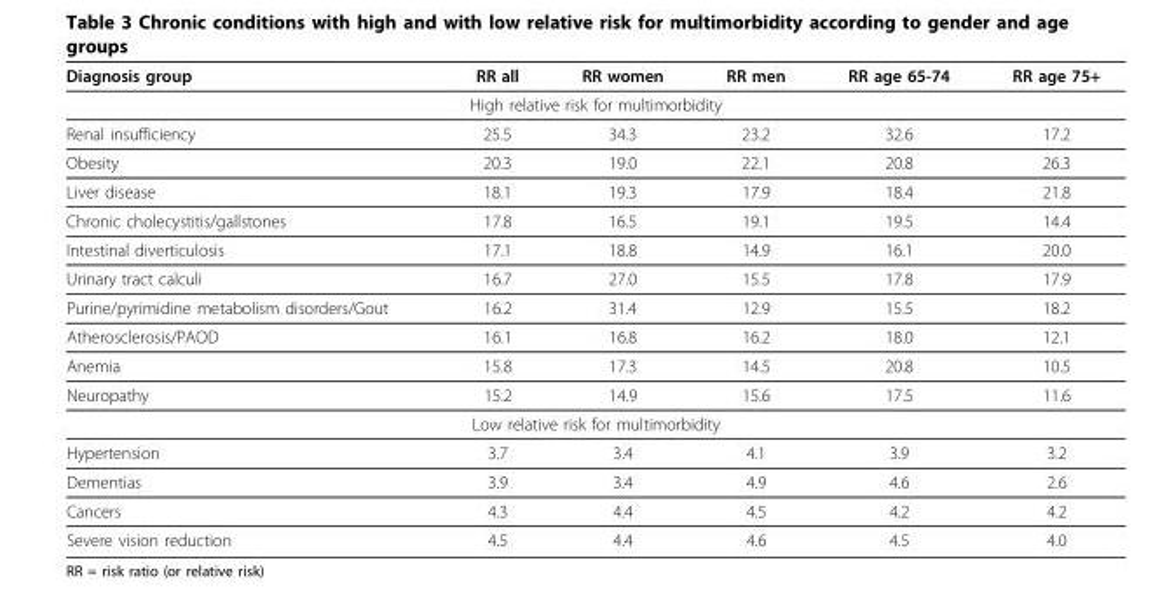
<table><thead><tr><td>Diagnosis group</td><td>RR all</td><td>RR women</td><td>RR men</td><td>RR age 65-74</td><td>RR age 75+</td></tr></thead><tbody><tr><td colspan="6">High relative risk for multimorbidity</td></tr><tr><td>Renal insufficiency</td><td>25.5</td><td>34.3</td><td>23.2</td><td>32.6</td><td>17.2</td></tr><tr><td>Obesity</td><td>20.3</td><td>19.0</td><td>22.1</td><td>20.8</td><td>26.3</td></tr><tr><td>Liver disease</td><td>18.1</td><td>19.3</td><td>17.9</td><td>18.4</td><td>21.8</td></tr><tr><td>Chronic cholecystitis/gallstones</td><td>17.8</td><td>16.5</td><td>19.1</td><td>19.5</td><td>14.4</td></tr><tr><td>Intestinal diverticulosis</td><td>17.1</td><td>18.8</td><td>14.9</td><td>16.1</td><td>20.0</td></tr><tr><td>Urinary tract calculi</td><td>16.7</td><td>27.0</td><td>15.5</td><td>17.8</td><td>17.9</td></tr><tr><td>Purine/pyrimidine metabolism disorders/Gout</td><td>16.2</td><td>31.4</td><td>12.9</td><td>15.5</td><td>18.2</td></tr><tr><td>Atherosclerosis/PAOD</td><td>16.1</td><td>16.8</td><td>16.2</td><td>18.0</td><td>12.1</td></tr><tr><td>Anemia</td><td>15.8</td><td>17.3</td><td>14.5</td><td>20.8</td><td>10.5</td></tr><tr><td>Neuropathy</td><td>15.2</td><td>14.9</td><td>15.6</td><td>17.5</td><td>11.6</td></tr><tr><td colspan="6">Low relative risk for multimorbidity</td></tr><tr><td>Hypertension</td><td>3.7</td><td>3.4</td><td>4.1</td><td>3.9</td><td>3.2</td></tr><tr><td>Dementias</td><td>3.9</td><td>3.4</td><td>4.9</td><td>4.6</td><td>2.6</td></tr><tr><td>Cancers</td><td>4.3</td><td>4.4</td><td>4.5</td><td>4.2</td><td>4.2</td></tr><tr><td>Severe vision reduction</td><td>4.5</td><td>4.4</td><td>4.6</td><td>4.5</td><td>4.0</td></tr></tbody></table>